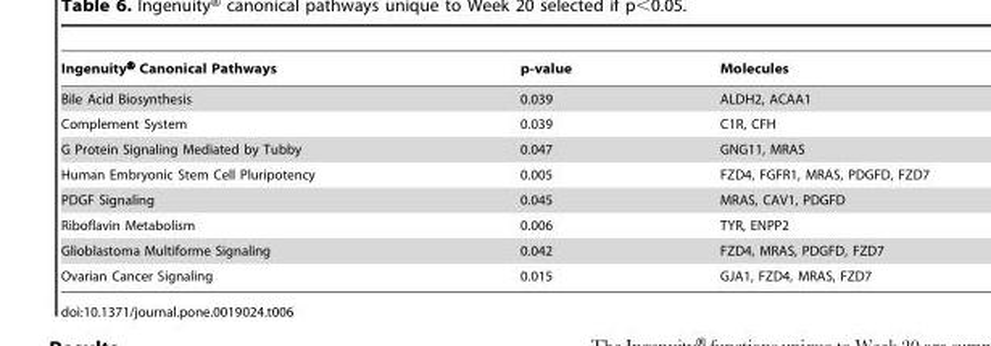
<table><thead><tr><td>Ingenuity® Canonical Pathways</td><td>p-value</td><td>Molecules</td></tr></thead><tbody><tr><td>Bile Acid Biosynthesis</td><td>0.039</td><td>ALDH2, ACAA1</td></tr><tr><td>Complement System</td><td>0.039</td><td>C1R, CFH</td></tr><tr><td>G Protein Signaling Mediated by Tubby</td><td>0.047</td><td>GNG11, MRAS</td></tr><tr><td>Human Embryonic Stem Cell Pluripotency</td><td>0.005</td><td>FZD4, FGFR1, MRAS, PDGFD, FZD7</td></tr><tr><td>PDGF Signaling</td><td>0.045</td><td>MRAS, CAV1, PDGFD</td></tr><tr><td>Riboflavin Metabolism</td><td>0.006</td><td>TYR, ENPP2</td></tr><tr><td>Glioblastoma Multiforme Signaling</td><td>0.042</td><td>FZD4, MRAS, PDGFD, FZD7</td></tr><tr><td>Ovarian Cancer Signaling</td><td>0.015</td><td>GJA1, FZD4, MRAS, FZD7</td></tr></tbody></table>